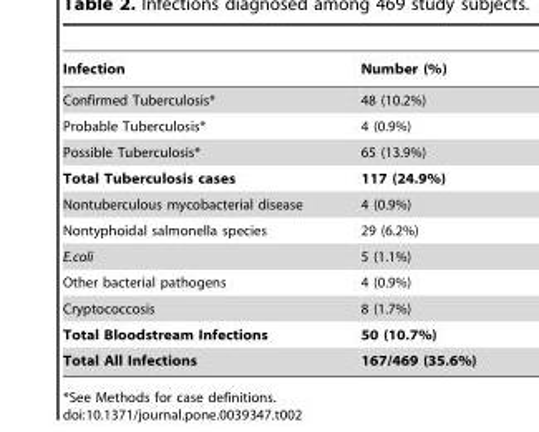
<table><thead><tr><td>Infection</td><td>Number (%)</td></tr></thead><tbody><tr><td>Confirmed Tuberculosis*</td><td>48 (10.2%)</td></tr><tr><td>Probable Tuberculosis*</td><td>4 (0.9%)</td></tr><tr><td>Possible Tuberculosis*</td><td>65 (13.9%)</td></tr><tr><td>Total Tuberculosis cases</td><td>117 (24.9%)</td></tr><tr><td>Nontuberculous mycobacterial disease</td><td>4 (0.9%)</td></tr><tr><td>Nontyphoidal salmonella species</td><td>29 (6.2%)</td></tr><tr><td>E.coli</td><td>5 (1.1%)</td></tr><tr><td>Other bacterial pathogens</td><td>4 (0.9%)</td></tr><tr><td>Cryptococcosis</td><td>8 (1.7%)</td></tr><tr><td>Total Bloodstream Infections</td><td>50 (10.7%)</td></tr><tr><td>Total All Infections</td><td>167/469 (35.6%)</td></tr></tbody></table>